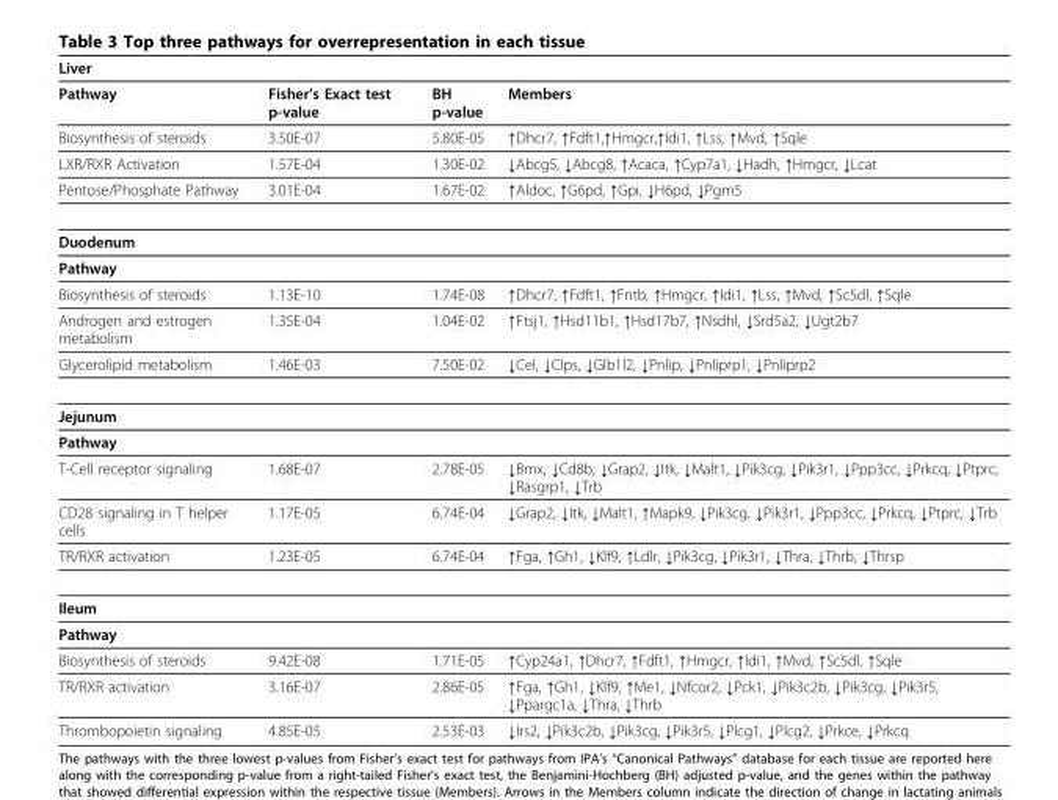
<table><thead><tr><td>Liver</td><td></td><td></td><td></td></tr></thead><tbody><tr><td>Pathway</td><td>Fisher’s Exact test p-value</td><td>BH p-value</td><td>Members</td></tr><tr><td>Biosynthesis of steroids</td><td>3.50E-07</td><td>5.80E-05</td><td>↑Dhcr7, ↑Fdft1,↑Hmgcr,↑Idi1, ↑Lss, ↑Mvd, ↑Sqle</td></tr><tr><td>LXR/RXR Activation</td><td>1.57E-04</td><td>1.30E-02</td><td>↓Abcg5, ↓Abcg8, ↑Acaca, ↑Cyp7a1, ↓Hadh, ↑Hmgcr, ↓Lcat</td></tr><tr><td>Pentose/Phosphate Pathway</td><td>3.01E-04</td><td>1.67E-02</td><td>↑Aldoc, ↑G6pd, ↑Gpi, ↓H6pd, ↓Pgm5</td></tr><tr><td colspan="4">Duodenum</td></tr><tr><td colspan="4">Pathway</td></tr><tr><td>Biosynthesis of steroids</td><td>1.13E-10</td><td>1.74E-08</td><td>↑Dhcr7, ↑Fdft1, ↑Fntb, ↑Hmgcr, ↑Idi1, ↑Lss, ↑Mvd, ↑Sc5dl, ↑Sqle</td></tr><tr><td>Androgen and estrogen metabolism</td><td>1.35E-04</td><td>1.04E-02</td><td>↑Ftsj1, ↑Hsd11b1, ↑Hsd17b7, ↑Nsdhl, ↓Srd5a2, ↓Ugt2b7</td></tr><tr><td>Glycerolipid metabolism</td><td>1.46E-03</td><td>7.50E-02</td><td>↓Cel, ↓Clps, ↓Glb1l2, ↓Pnlip, ↓Pnliprp1, ↓Pnliprp2</td></tr><tr><td colspan="4">Jejunum</td></tr><tr><td colspan="4">Pathway</td></tr><tr><td>T-Cell receptor signaling</td><td>1.68E-07</td><td>2.78E-05</td><td>↓Bmx, ↓Cd8b, ↓Grap2, ↓Itk, ↓Malt1, ↓Pik3cg, ↓Pik3r1, ↓Ppp3cc, ↓Prkcq, ↓Ptprc, ↓Rasgrp1, ↓Trb</td></tr><tr><td>CD28 signaling in T helper cells</td><td>1.17E-05</td><td>6.74E-04</td><td>↓Grap2, ↓Itk, ↓Malt1, ↑Mapk9, ↓Pik3cg, ↓Pik3r1, ↓Ppp3cc, ↓Prkcq, ↓Ptprc, ↓Trb</td></tr><tr><td>TR/RXR activation</td><td>1.23E-05</td><td>6.74E-04</td><td>↑Fga, ↑Gh1, ↓Klf9, ↑Ldlr, ↓Pik3cg, ↓Pik3r1, ↓Thra, ↓Thrb, ↓Thrsp</td></tr><tr><td colspan="4">Ileum</td></tr><tr><td colspan="4">Pathway</td></tr><tr><td>Biosynthesis of steroids</td><td>9.42E-08</td><td>1.71E-05</td><td>↑Cyp24a1, ↑Dhcr7, ↑Fdft1, ↑Hmgcr, ↑Idi1, ↑Mvd, ↑Sc5dl, ↑Sqle</td></tr><tr><td>TR/RXR activation</td><td>3.16E-07</td><td>2.86E-05</td><td>↑Fga, ↑Gh1, ↓Klf9, ↑Me1, ↓Nfcor2, ↓Pck1, ↓Pik3c2b, ↓Pik3cg, ↓Pik3r5, ↓Ppargc1a, ↓Thra, ↓Thrb</td></tr><tr><td>Thrombopoietin signaling</td><td>4.85E-05</td><td>2.53E-03</td><td>↓Irs2, ↓Pik3c2b, ↓Pik3cg, ↓Pik3r5, ↓Plcg1, ↓Plcg2, ↓Prkce, ↓Prkcq</td></tr></tbody></table>